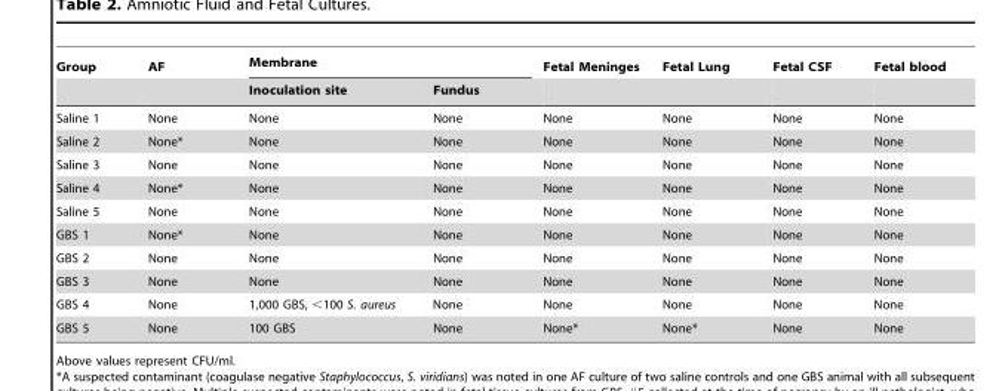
<table><thead><tr><td rowspan="2">Group</td><td rowspan="2">AF</td><td colspan="2">Membrane</td><td rowspan="2">Fetal Meninges</td><td rowspan="2">Fetal Lung</td><td rowspan="2">Fetal CSF</td><td rowspan="2">Fetal blood</td></tr><tr><td>Inoculation site</td><td>Fundus</td></tr></thead><tbody><tr><td>Saline 1</td><td>None</td><td>None</td><td>None</td><td>None</td><td>None</td><td>None</td><td>None</td></tr><tr><td>Saline 2</td><td>None*</td><td>None</td><td>None</td><td>None</td><td>None</td><td>None</td><td>None</td></tr><tr><td>Saline 3</td><td>None</td><td>None</td><td>None</td><td>None</td><td>None</td><td>None</td><td>None</td></tr><tr><td>Saline 4</td><td>None*</td><td>None</td><td>None</td><td>None</td><td>None</td><td>None</td><td>None</td></tr><tr><td>Saline 5</td><td>None</td><td>None</td><td>None</td><td>None</td><td>None</td><td>None</td><td>None</td></tr><tr><td>GBS 1</td><td>None*</td><td>None</td><td>None</td><td>None</td><td>None</td><td>None</td><td>None</td></tr><tr><td>GBS 2</td><td>None</td><td>None</td><td>None</td><td>None</td><td>None</td><td>None</td><td>None</td></tr><tr><td>GBS 3</td><td>None</td><td>None</td><td>None</td><td>None</td><td>None</td><td>None</td><td>None</td></tr><tr><td>GBS 4</td><td>None</td><td>1,000 GBS, &lt;100 S. aureus</td><td>None</td><td>None</td><td>None</td><td>None</td><td>None</td></tr><tr><td>GBS 5</td><td>None</td><td>100 GBS</td><td>None</td><td>None*</td><td>None*</td><td>None</td><td>None</td></tr></tbody></table>